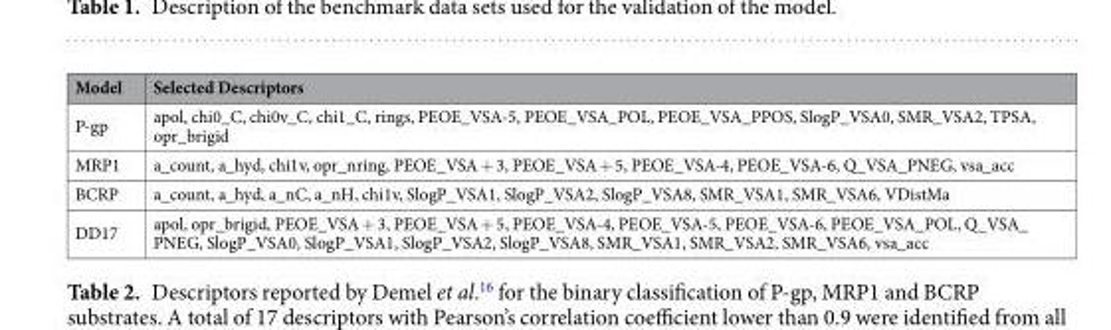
<table><thead><tr><td>Model</td><td>Selected Descriptors</td></tr></thead><tbody><tr><td>P-gp</td><td>apol, chi0_C, chi0v_C, chi1_C, rings, PEOE_VSA-5, PEOE_VSA_POL, PEOE_VSA_PPOS, SlogP_VSA0, SMR_VSA2, TPSA, opr_brigid</td></tr><tr><td>MRP1</td><td>a_count, a_hyd, chi1v, opr_nring, PEOE_VSA + 3, PEOE_VSA + 5, PEOE_VSA-4, PEOE_VSA-6, Q_VSA_PNEG, vsa_acc</td></tr><tr><td>BCRP</td><td>a_count, a_hyd, a_nC, a_nH, chi1v, SlogP_VSA1, SlogP_VSA2, SlogP_VSA8, SMR_VSA1, SMR_VSA6, VDistMa</td></tr><tr><td>DD17</td><td>apol, opr_brigid, PEOE_VSA + 3, PEOE_VSA + 5, PEOE_VSA-4, PEOE_VSA-5, PEOE_VSA-6, PEOE_VSA_POL, Q_VSA_ PNEG, SlogP_VSA0, SlogP_VSA1, SlogP_VSA2, SlogP_VSA8, SMR_VSA1, SMR_VSA2, SMR_VSA6, vsa_acc</td></tr></tbody></table>